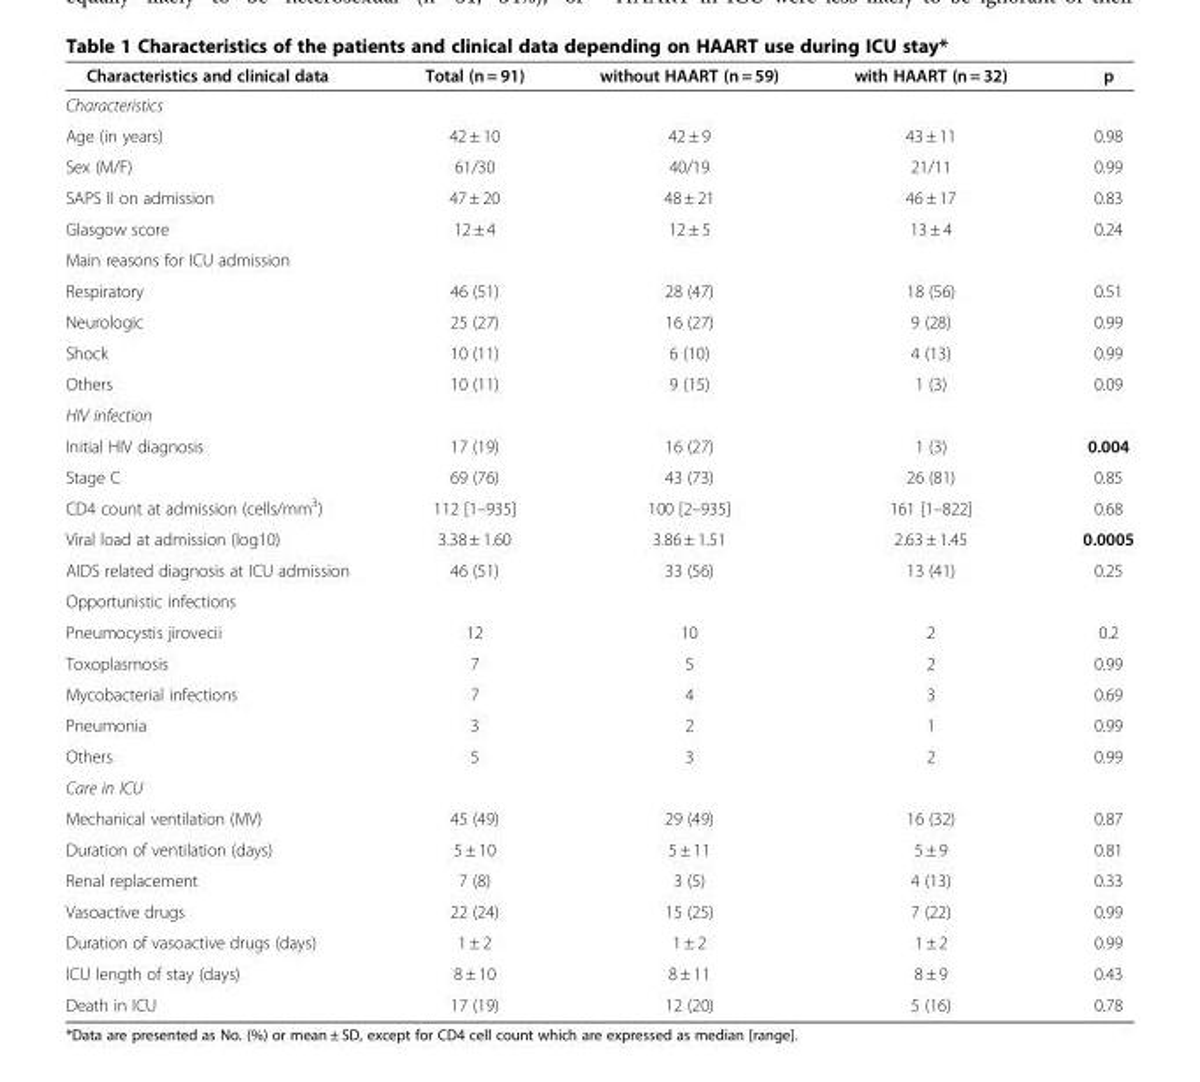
<table><thead><tr><td>Characteristics and clinical data</td><td>Total (n = 91)</td><td>without HAART (n = 59)</td><td>with HAART (n = 32)</td><td>p</td></tr></thead><tbody><tr><td colspan="5">Characteristics</td></tr><tr><td>Age (in years)</td><td>42 ± 10</td><td>42 ± 9</td><td>43 ± 11</td><td>0.98</td></tr><tr><td>Sex (M/F)</td><td>61/30</td><td>40/19</td><td>21/11</td><td>0.99</td></tr><tr><td>SAPS II on admission</td><td>47 ± 20</td><td>48 ± 21</td><td>46 ± 17</td><td>0.83</td></tr><tr><td>Glasgow score</td><td>12 ± 4</td><td>12 ± 5</td><td>13 ± 4</td><td>0.24</td></tr><tr><td colspan="5">Main reasons for ICU admission</td></tr><tr><td>Respiratory</td><td>46 (51)</td><td>28 (47)</td><td>18 (56)</td><td>0.51</td></tr><tr><td>Neurologic</td><td>25 (27)</td><td>16 (27)</td><td>9 (28)</td><td>0.99</td></tr><tr><td>Shock</td><td>10 (11)</td><td>6 (10)</td><td>4 (13)</td><td>0.99</td></tr><tr><td>Others</td><td>10 (11)</td><td>9 (15)</td><td>1 (3)</td><td>0.09</td></tr><tr><td colspan="5">HIV infection</td></tr><tr><td>Initial HIV diagnosis</td><td>17 (19)</td><td>16 (27)</td><td>1 (3)</td><td>0.004</td></tr><tr><td>Stage C</td><td>69 (76)</td><td>43 (73)</td><td>26 (81)</td><td>0.85</td></tr><tr><td>CD4 count at admission (cells/mm<sup>3</sup>)</td><td>112 [1–935]</td><td>100 [2–935]</td><td>161 [1–822]</td><td>0.68</td></tr><tr><td>Viral load at admission (log10)</td><td>3.38 ± 1.60</td><td>3.86 ± 1.51</td><td>2.63 ± 1.45</td><td>0.0005</td></tr><tr><td>AIDS related diagnosis at ICU admission</td><td>46 (51)</td><td>33 (56)</td><td>13 (41)</td><td>0.25</td></tr><tr><td colspan="5">Opportunistic infections</td></tr><tr><td>Pneumocystis jirovecii</td><td>12</td><td>10</td><td>2</td><td>0.2</td></tr><tr><td>Toxoplasmosis</td><td>7</td><td>5</td><td>2</td><td>0.99</td></tr><tr><td>Mycobacterial infections</td><td>7</td><td>4</td><td>3</td><td>0.69</td></tr><tr><td>Pneumonia</td><td>3</td><td>2</td><td>1</td><td>0.99</td></tr><tr><td>Others</td><td>5</td><td>3</td><td>2</td><td>0.99</td></tr><tr><td colspan="5">Care in ICU</td></tr><tr><td>Mechanical ventilation (MV)</td><td>45 (49)</td><td>29 (49)</td><td>16 (32)</td><td>0.87</td></tr><tr><td>Duration of ventilation (days)</td><td>5 ± 10</td><td>5 ± 11</td><td>5 ± 9</td><td>0.81</td></tr><tr><td>Renal replacement</td><td>7 (8)</td><td>3 (5)</td><td>4 (13)</td><td>0.33</td></tr><tr><td>Vasoactive drugs</td><td>22 (24)</td><td>15 (25)</td><td>7 (22)</td><td>0.99</td></tr><tr><td>Duration of vasoactive drugs (days)</td><td>1 ± 2</td><td>1 ± 2</td><td>1 ± 2</td><td>0.99</td></tr><tr><td>ICU length of stay (days)</td><td>8 ± 10</td><td>8 ± 11</td><td>8 ± 9</td><td>0.43</td></tr><tr><td>Death in ICU</td><td>17 (19)</td><td>12 (20)</td><td>5 (16)</td><td>0.78</td></tr></tbody></table>